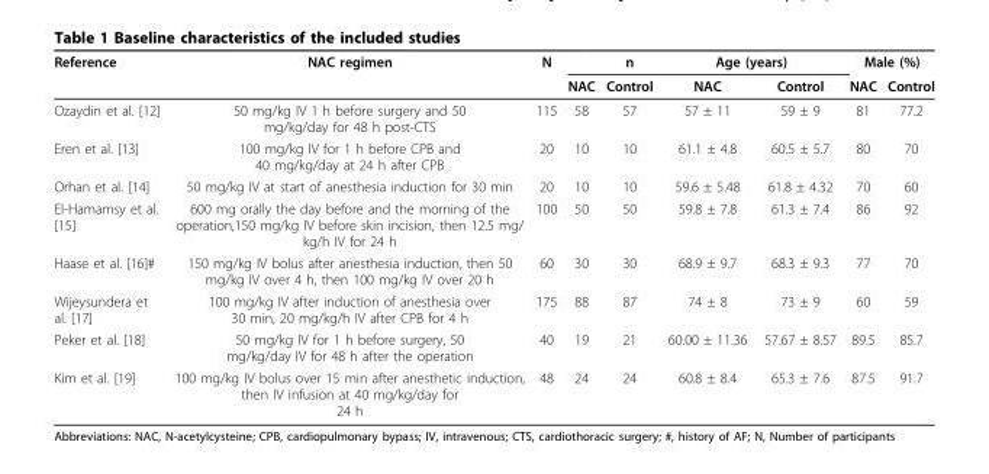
<table><thead><tr><td rowspan="2">Reference</td><td rowspan="2">NAC regimen</td><td rowspan="2">N</td><td rowspan="2">NAC</td><td rowspan="2">n Control</td><td colspan="2">Age (years)</td><td colspan="2">Male (%)</td></tr><tr><td>NAC</td><td>Control</td><td>NAC</td><td>Control</td></tr></thead><tbody><tr><td>Ozaydin et al. [12]</td><td>50 mg/kg IV 1 h before surgery and 50 mg/kg/day for 48 h post-CTS</td><td>115</td><td>58</td><td>57</td><td>57 ± 11</td><td>59 ± 9</td><td>81</td><td>77.2</td></tr><tr><td>Eren et al. [13]</td><td>100 mg/kg IV for 1 h before CPB and 40 mg/kg/day at 24 h after CPB</td><td>20</td><td>10</td><td>10</td><td>61.1 ± 4.8</td><td>60.5 ± 5.7</td><td>80</td><td>70</td></tr><tr><td>Orhan et al. [14]</td><td>50 mg/kg IV at start of anesthesia induction for 30 min</td><td>20</td><td>10</td><td>10</td><td>59.6 ± 5.48</td><td>61.8 ± 4.32</td><td>70</td><td>60</td></tr><tr><td>El-Hamamsy et al. [15]</td><td>600 mg orally the day before and the morning of the operation,150 mg/kg IV before skin incision, then 12.5 mg/ kg/h IV for 24 h</td><td>100</td><td>50</td><td>50</td><td>59.8 ± 7.8</td><td>61.3 ± 7.4</td><td>86</td><td>92</td></tr><tr><td>Haase et al. [16]#</td><td>150 mg/kg IV bolus after anesthesia induction, then 50 mg/kg IV over 4 h, then 100 mg/kg IV over 20 h</td><td>60</td><td>30</td><td>30</td><td>68.9 ± 9.7</td><td>68.3 ± 9.3</td><td>77</td><td>70</td></tr><tr><td>Wijeysundera et al. [17]</td><td>100 mg/kg IV after induction of anesthesia over 30 min, 20 mg/kg/h IV after CPB for 4 h</td><td>175</td><td>88</td><td>87</td><td>74 ± 8</td><td>73 ± 9</td><td>60</td><td>59</td></tr><tr><td>Peker et al. [18]</td><td>50 mg/kg IV for 1 h before surgery, 50 mg/kg/day IV for 48 h after the operation</td><td>40</td><td>19</td><td>21</td><td>60.00 ± 11.36</td><td>57.67 ± 8.57</td><td>89.5</td><td>85.7</td></tr><tr><td>Kim et al. [19]</td><td>100 mg/kg IV bolus over 15 min after anesthetic induction, then IV infusion at 40 mg/kg/day for 24 h</td><td>48</td><td>24</td><td>24</td><td>60.8 ± 8.4</td><td>65.3 ± 7.6</td><td>87.5</td><td>91.7</td></tr></tbody></table>